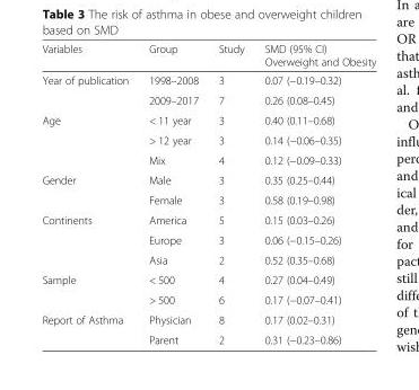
<table><thead><tr><td>Variables</td><td>Group</td><td>Study</td><td>SMD (95% CI) Overweight and Obesity</td></tr></thead><tbody><tr><td rowspan="2">Year of publication</td><td>1998–2008</td><td>3</td><td>0.07 (−0.19–0.32)</td></tr><tr><td>2009–2017</td><td>7</td><td>0.26 (0.08–0.45)</td></tr><tr><td rowspan="3">Age</td><td>&lt; 11 year</td><td>3</td><td>0.40 (0.11–0.68)</td></tr><tr><td>&gt; 12 year</td><td>3</td><td>0.14 (−0.06–0.35)</td></tr><tr><td>Mix</td><td>4</td><td>0.12 (−0.09–0.33)</td></tr><tr><td rowspan="2">Gender</td><td>Male</td><td>3</td><td>0.35 (0.25–0.44)</td></tr><tr><td>Female</td><td>3</td><td>0.58 (0.19–0.98)</td></tr><tr><td rowspan="3">Continents</td><td>America</td><td>5</td><td>0.15 (0.03–0.26)</td></tr><tr><td>Europe</td><td>3</td><td>0.06 (−0.15–0.26)</td></tr><tr><td>Asia</td><td>2</td><td>0.52 (0.35–0.68)</td></tr><tr><td rowspan="2">Sample</td><td>&lt; 500</td><td>4</td><td>0.27 (0.04–0.49)</td></tr><tr><td>&gt; 500</td><td>6</td><td>0.17 (−0.07–0.41)</td></tr><tr><td rowspan="2">Report of Asthma</td><td>Physician</td><td>8</td><td>0.17 (0.02–0.31)</td></tr><tr><td>Parent</td><td>2</td><td>0.31 (−0.23–0.86)</td></tr></tbody></table>